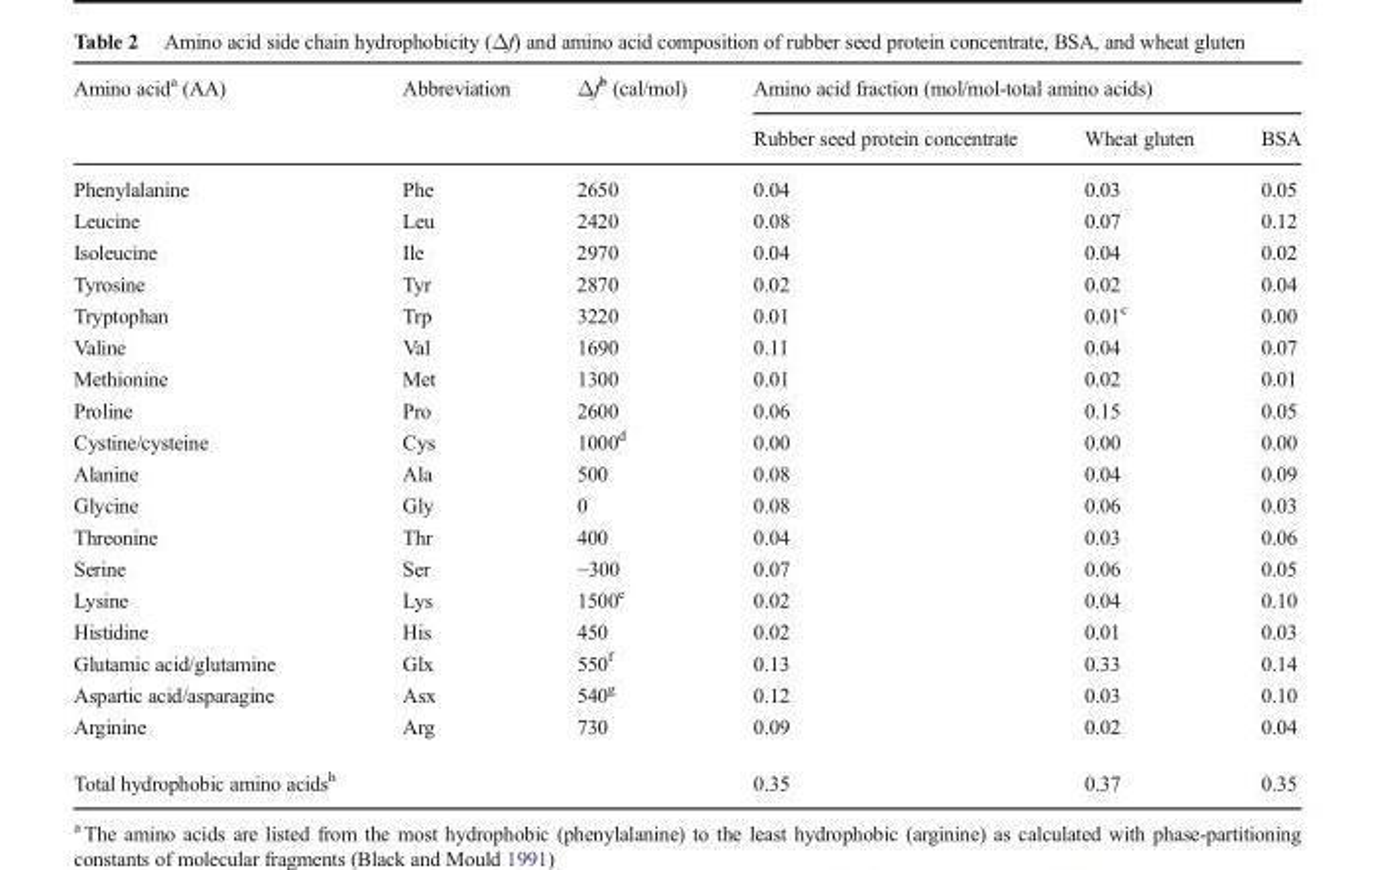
<table><thead><tr><td rowspan="2">Amino acid<sup>a</sup> (AA)</td><td rowspan="2">Abbreviation</td><td rowspan="2">Δf<sup>b</sup> (cal/mol)</td><td colspan="3">Amino acid fraction (mol/mol-total amino acids)</td></tr><tr><td>Rubber seed protein concentrate</td><td>Wheat gluten</td><td>BSA</td></tr></thead><tbody><tr><td>Phenylalanine</td><td>Phe</td><td>2650</td><td>0.04</td><td>0.03</td><td>0.05</td></tr><tr><td>Leucine</td><td>Leu</td><td>2420</td><td>0.08</td><td>0.07</td><td>0.12</td></tr><tr><td>Isoleucine</td><td>Ile</td><td>2970</td><td>0.04</td><td>0.04</td><td>0.02</td></tr><tr><td>Tyrosine</td><td>Tyr</td><td>2870</td><td>0.02</td><td>0.02</td><td>0.04</td></tr><tr><td>Tryptophan</td><td>Trp</td><td>3220</td><td>0.01</td><td>0.01<sup>c</sup></td><td>0.00</td></tr><tr><td>Valine</td><td>Val</td><td>1690</td><td>0.11</td><td>0.04</td><td>0.07</td></tr><tr><td>Methionine</td><td>Met</td><td>1300</td><td>0.01</td><td>0.02</td><td>0.01</td></tr><tr><td>Proline</td><td>Pro</td><td>2600</td><td>0.06</td><td>0.15</td><td>0.05</td></tr><tr><td>Cystine/cysteine</td><td>Cys</td><td>1000<sup>d</sup></td><td>0.00</td><td>0.00</td><td>0.00</td></tr><tr><td>Alanine</td><td>Ala</td><td>500</td><td>0.08</td><td>0.04</td><td>0.09</td></tr><tr><td>Glycine</td><td>Gly</td><td>0</td><td>0.08</td><td>0.06</td><td>0.03</td></tr><tr><td>Threonine</td><td>Thr</td><td>400</td><td>0.04</td><td>0.03</td><td>0.06</td></tr><tr><td>Serine</td><td>Ser</td><td>−300</td><td>0.07</td><td>0.06</td><td>0.05</td></tr><tr><td>Lysine</td><td>Lys</td><td>1500<sup>e</sup></td><td>0.02</td><td>0.04</td><td>0.10</td></tr><tr><td>Histidine</td><td>His</td><td>450</td><td>0.02</td><td>0.01</td><td>0.03</td></tr><tr><td>Glutamic acid/glutamine</td><td>Glx</td><td>550<sup>f</sup></td><td>0.13</td><td>0.33</td><td>0.14</td></tr><tr><td>Aspartic acid/asparagine</td><td>Asx</td><td>540<sup>g</sup></td><td>0.12</td><td>0.03</td><td>0.10</td></tr><tr><td>Arginine</td><td>Arg</td><td>730</td><td>0.09</td><td>0.02</td><td>0.04</td></tr><tr><td>Total hydrophobic amino acids<sup>h</sup></td><td></td><td></td><td>0.35</td><td>0.37</td><td>0.35</td></tr></tbody></table>